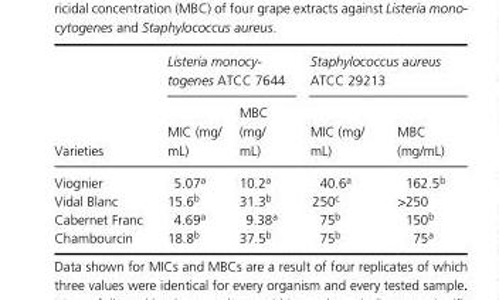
<table><thead><tr><td rowspan="2">Varieties</td><td colspan="2">Listeria monocy togenes ATCC 7644</td><td colspan="2">Staphylococcus aureus ATCC 29213</td></tr><tr><td>MIC (mg/ mL)</td><td>MBC (mg/ mL)</td><td>MIC (mg/ mL)</td><td>MBC (mg/mL)</td></tr></thead><tbody><tr><td>Viognier</td><td>5.07<sup>a</sup></td><td>10.2<sup>a</sup></td><td>40.6<sup>a</sup></td><td>162.5<sup>b</sup></td></tr><tr><td>Vidal Blanc</td><td>15.6<sup>b</sup></td><td>31.3<sup>b</sup></td><td>250<sup>c</sup></td><td>&gt;250</td></tr><tr><td>Cabernet Franc</td><td>4.69<sup>a</sup></td><td>9.38<sup>a</sup></td><td>75<sup>b</sup></td><td>150<sup>b</sup></td></tr><tr><td>Chambourcin</td><td>18.8<sup>b</sup></td><td>37.5<sup>b</sup></td><td>75<sup>b</sup></td><td>75<sup>a</sup></td></tr></tbody></table>